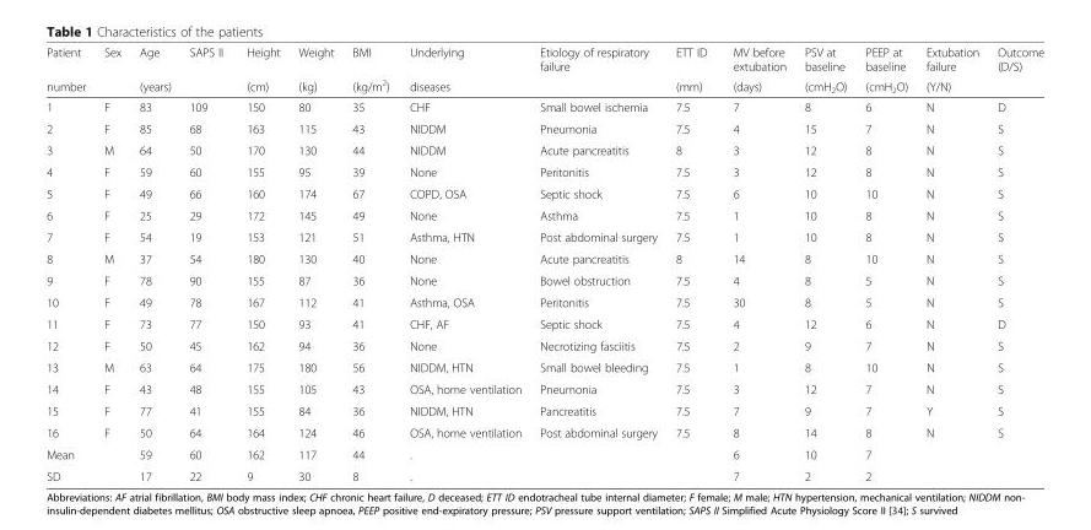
<table><thead><tr><td rowspan="2">Patient number</td><td rowspan="2">Sex</td><td rowspan="2">Age (years)</td><td rowspan="2">SAPS II</td><td rowspan="2">Height (cm)</td><td rowspan="2">Weight (kg)</td><td rowspan="2">BMI (kg/m<sup>2</sup>)</td><td rowspan="2">Underlying diseases</td><td rowspan="2">Etiology of respiratory failure</td><td rowspan="2">ETT ID (mm)</td><td rowspan="2">MV before extubation (days)</td><td rowspan="2">PSV at baseline (cmH<sub>2</sub>O)</td><td rowspan="2">PEEP at baseline (cmH<sub>2</sub>O)</td><td rowspan="2">Extubation failure (Y/N)</td><td rowspan="2">Outcome (D/S)</td></tr><tr></tr></thead><tbody><tr><td>1</td><td>F</td><td>83</td><td>109</td><td>150</td><td>80</td><td>35</td><td>CHF</td><td>Small bowel ischemia</td><td>7.5</td><td>7</td><td>8</td><td>6</td><td>N</td><td>D</td></tr><tr><td>2</td><td>F</td><td>85</td><td>68</td><td>163</td><td>115</td><td>43</td><td>NIDDM</td><td>Pneumonia</td><td>7.5</td><td>4</td><td>15</td><td>7</td><td>N</td><td>S</td></tr><tr><td>3</td><td>M</td><td>64</td><td>50</td><td>170</td><td>130</td><td>44</td><td>NIDDM</td><td>Acute pancreatitis</td><td>8</td><td>3</td><td>12</td><td>8</td><td>N</td><td>S</td></tr><tr><td>4</td><td>F</td><td>59</td><td>60</td><td>155</td><td>95</td><td>39</td><td>None</td><td>Peritonitis</td><td>7.5</td><td>3</td><td>12</td><td>8</td><td>N</td><td>S</td></tr><tr><td>5</td><td>F</td><td>49</td><td>66</td><td>160</td><td>174</td><td>67</td><td>COPD, OSA</td><td>Septic shock</td><td>7.5</td><td>6</td><td>10</td><td>10</td><td>N</td><td>S</td></tr><tr><td>6</td><td>F</td><td>25</td><td>29</td><td>172</td><td>145</td><td>49</td><td>None</td><td>Asthma</td><td>7.5</td><td>1</td><td>10</td><td>8</td><td>N</td><td>S</td></tr><tr><td>7</td><td>F</td><td>54</td><td>19</td><td>153</td><td>121</td><td>51</td><td>Asthma, HTN</td><td>Post abdominal surgery</td><td>7.5</td><td>1</td><td>10</td><td>8</td><td>N</td><td>S</td></tr><tr><td>8</td><td>M</td><td>37</td><td>54</td><td>180</td><td>130</td><td>40</td><td>None</td><td>Acute pancreatitis</td><td>8</td><td>14</td><td>8</td><td>10</td><td>N</td><td>S</td></tr><tr><td>9</td><td>F</td><td>78</td><td>90</td><td>155</td><td>87</td><td>36</td><td>None</td><td>Bowel obstruction</td><td>7.5</td><td>4</td><td>8</td><td>5</td><td>N</td><td>S</td></tr><tr><td>10</td><td>F</td><td>49</td><td>78</td><td>167</td><td>112</td><td>41</td><td>Asthma, OSA</td><td>Peritonitis</td><td>7.5</td><td>30</td><td>8</td><td>5</td><td>N</td><td>S</td></tr><tr><td>11</td><td>F</td><td>73</td><td>77</td><td>150</td><td>93</td><td>41</td><td>CHF, AF</td><td>Septic shock</td><td>7.5</td><td>4</td><td>12</td><td>6</td><td>N</td><td>D</td></tr><tr><td>12</td><td>F</td><td>50</td><td>45</td><td>162</td><td>94</td><td>36</td><td>None</td><td>Necrotizing fasciitis</td><td>7.5</td><td>2</td><td>9</td><td>7</td><td>N</td><td>S</td></tr><tr><td>13</td><td>M</td><td>63</td><td>64</td><td>175</td><td>180</td><td>56</td><td>NIDDM, HTN</td><td>Small bowel bleeding</td><td>7.5</td><td>1</td><td>8</td><td>10</td><td>N</td><td>S</td></tr><tr><td>14</td><td>F</td><td>43</td><td>48</td><td>155</td><td>105</td><td>43</td><td>OSA, home ventilation</td><td>Pneumonia</td><td>7.5</td><td>3</td><td>12</td><td>7</td><td>N</td><td>S</td></tr><tr><td>15</td><td>F</td><td>77</td><td>41</td><td>155</td><td>84</td><td>36</td><td>NIDDM, HTN</td><td>Pancreatitis</td><td>7.5</td><td>7</td><td>9</td><td>7</td><td>Y</td><td>S</td></tr><tr><td>16</td><td>F</td><td>50</td><td>64</td><td>164</td><td>124</td><td>46</td><td>OSA, home ventilation</td><td>Post abdominal surgery</td><td>7.5</td><td>8</td><td>14</td><td>8</td><td>N</td><td>S</td></tr><tr><td>Mean</td><td></td><td>59</td><td>60</td><td>162</td><td>117</td><td>44</td><td>.</td><td></td><td></td><td>6</td><td>10</td><td>7</td><td></td><td></td></tr><tr><td>SD</td><td></td><td>17</td><td>22</td><td>9</td><td>30</td><td>8</td><td>.</td><td></td><td></td><td>7</td><td>2</td><td>2</td><td></td><td></td></tr></tbody></table>